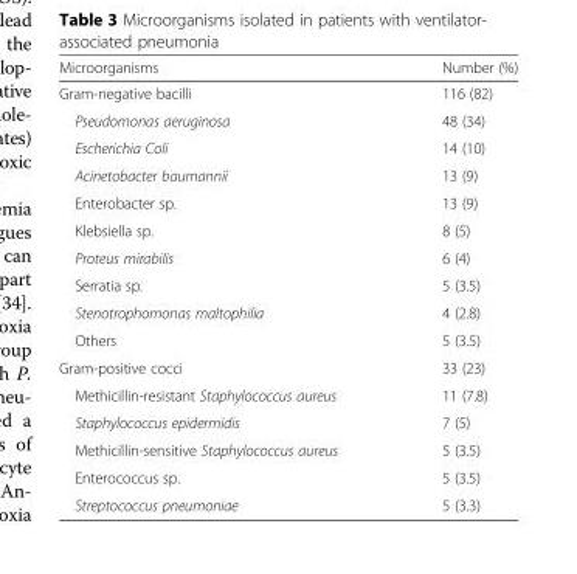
<table><thead><tr><td>Microorganisms</td><td>Number (%)</td></tr></thead><tbody><tr><td>Gram-negative bacilli</td><td>116 (82)</td></tr><tr><td>Pseudomonas aeruginosa</td><td>48 (34)</td></tr><tr><td>Escherichia Coli</td><td>14 (10)</td></tr><tr><td>Acinetobacter baumannii</td><td>13 (9)</td></tr><tr><td>Enterobacter sp.</td><td>13 (9)</td></tr><tr><td>Klebsiella sp.</td><td>8 (5)</td></tr><tr><td>Proteus mirabilis</td><td>6 (4)</td></tr><tr><td>Serratia sp.</td><td>5 (3.5)</td></tr><tr><td>Stenotrophomonas maltophilia</td><td>4 (2.8)</td></tr><tr><td>Others</td><td>5 (3.5)</td></tr><tr><td>Gram-positive cocci</td><td>33 (23)</td></tr><tr><td>Methicillin-resistant Staphylococcus aureus</td><td>11 (7.8)</td></tr><tr><td>Staphylococcus epidermidis</td><td>7 (5)</td></tr><tr><td>Methicillin-sensitive Staphylococcus aureus</td><td>5 (3.5)</td></tr><tr><td>Enterococcus sp.</td><td>5 (3.5)</td></tr><tr><td>Streptococcus pneumoniae</td><td>5 (3.3)</td></tr></tbody></table>